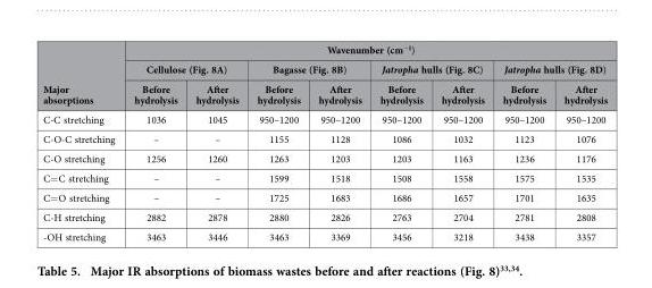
<table><thead><tr><td rowspan="3">Major absorptions</td><td colspan="8">Wavenumber (cm<sup>−1</sup>)</td></tr><tr><td colspan="2">Cellulose (Fig. 8A)</td><td colspan="2">Bagasse (Fig. 8B)</td><td colspan="2">Jatropha hulls (Fig. 8C)</td><td colspan="2">Jatropha hulls (Fig. 8D)</td></tr><tr><td>Before hydrolysis</td><td>After hydrolysis</td><td>Before hydrolysis</td><td>After hydrolysis</td><td>Before hydrolysis</td><td>After hydrolysis</td><td>Before hydrolysis</td><td>After hydrolysis</td></tr></thead><tbody><tr><td>C-C stretching</td><td>1036</td><td>1045</td><td>950–1200</td><td>950–1200</td><td>950–1200</td><td>950–1200</td><td>950–1200</td><td>950–1200</td></tr><tr><td>C-O-C stretching</td><td>–</td><td>–</td><td>1155</td><td>1128</td><td>1086</td><td>1032</td><td>1123</td><td>1076</td></tr><tr><td>C-O stretching</td><td>1256</td><td>1260</td><td>1263</td><td>1203</td><td>1203</td><td>1163</td><td>1236</td><td>1176</td></tr><tr><td>C= C stretching</td><td>–</td><td>–</td><td>1599</td><td>1518</td><td>1508</td><td>1558</td><td>1575</td><td>1535</td></tr><tr><td>C= O stretching</td><td>–</td><td>–</td><td>1725</td><td>1683</td><td>1686</td><td>1657</td><td>1701</td><td>1635</td></tr><tr><td>C-H stretching</td><td>2882</td><td>2878</td><td>2880</td><td>2826</td><td>2763</td><td>2704</td><td>2781</td><td>2808</td></tr><tr><td>-OH stretching</td><td>3463</td><td>3446</td><td>3463</td><td>3369</td><td>3456</td><td>3218</td><td>3438</td><td>3357</td></tr></tbody></table>